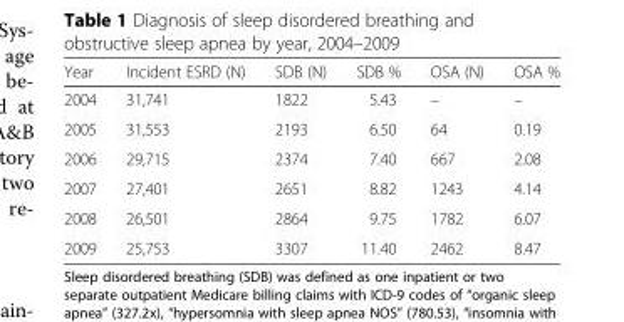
<table><thead><tr><td>Year</td><td>Incident ESRD (N)</td><td>SDB (N)</td><td>SDB %</td><td>OSA (N)</td><td>OSA %</td></tr></thead><tbody><tr><td>2004</td><td>31,741</td><td>1822</td><td>5.43</td><td>–</td><td>–</td></tr><tr><td>2005</td><td>31,553</td><td>2193</td><td>6.50</td><td>64</td><td>0.19</td></tr><tr><td>2006</td><td>29,715</td><td>2374</td><td>7.40</td><td>667</td><td>2.08</td></tr><tr><td>2007</td><td>27,401</td><td>2651</td><td>8.82</td><td>1243</td><td>4.14</td></tr><tr><td>2008</td><td>26,501</td><td>2864</td><td>9.75</td><td>1782</td><td>6.07</td></tr><tr><td>2009</td><td>25,753</td><td>3307</td><td>11.40</td><td>2462</td><td>8.47</td></tr></tbody></table>